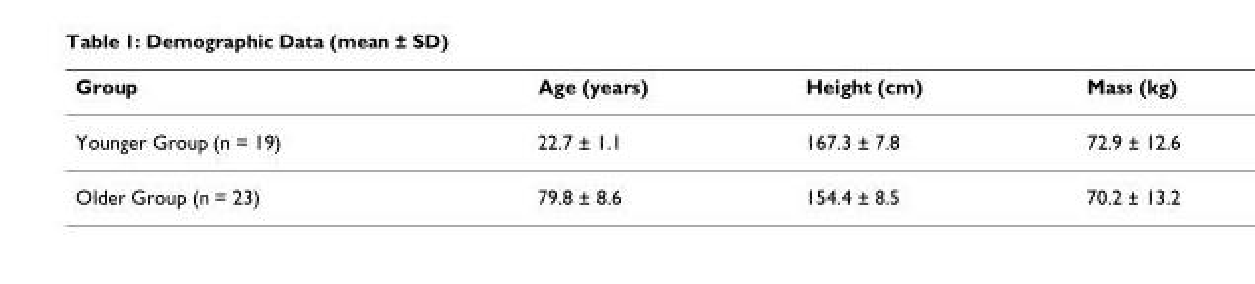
<table><thead><tr><td>Group</td><td>Age (years)</td><td>Height (cm)</td><td>Mass (kg)</td></tr></thead><tbody><tr><td>Younger Group (n = 19)</td><td>22.7 ± 1.1</td><td>167.3 ± 7.8</td><td>72.9 ± 12.6</td></tr><tr><td>Older Group (n = 23)</td><td>79.8 ± 8.6</td><td>154.4 ± 8.5</td><td>70.2 ± 13.2</td></tr></tbody></table>